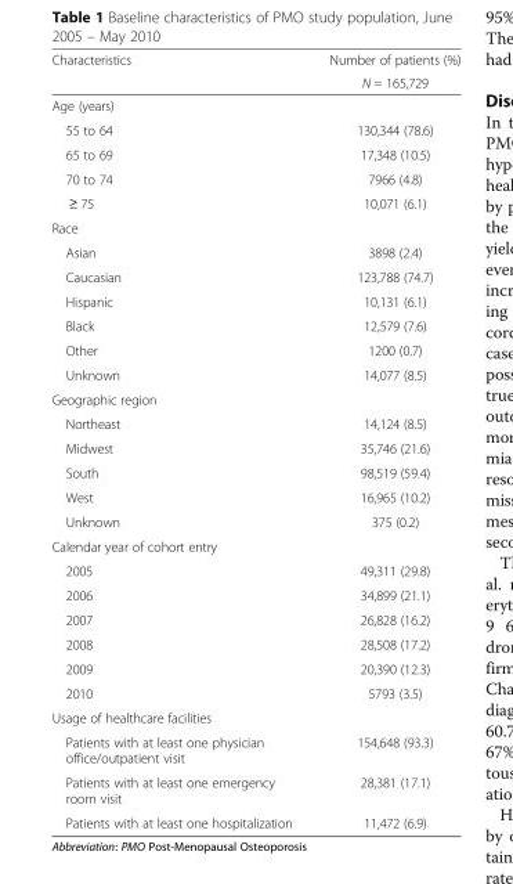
<table><thead><tr><td rowspan="2">Characteristics</td><td rowspan="2">Number of patients (%) N = 165,729</td></tr><tr></tr></thead><tbody><tr><td colspan="2">Age (years)</td></tr><tr><td>55 to 64</td><td>130,344 (78.6)</td></tr><tr><td>65 to 69</td><td>17,348 (10.5)</td></tr><tr><td>70 to 74</td><td>7966 (4.8)</td></tr><tr><td>≥ 75</td><td>10,071 (6.1)</td></tr><tr><td colspan="2">Race</td></tr><tr><td>Asian</td><td>3898 (2.4)</td></tr><tr><td>Caucasian</td><td>123,788 (74.7)</td></tr><tr><td>Hispanic</td><td>10,131 (6.1)</td></tr><tr><td>Black</td><td>12,579 (7.6)</td></tr><tr><td>Other</td><td>1200 (0.7)</td></tr><tr><td>Unknown</td><td>14,077 (8.5)</td></tr><tr><td colspan="2">Geographic region</td></tr><tr><td>Northeast</td><td>14,124 (8.5)</td></tr><tr><td>Midwest</td><td>35,746 (21.6)</td></tr><tr><td>South</td><td>98,519 (59.4)</td></tr><tr><td>West</td><td>16,965 (10.2)</td></tr><tr><td>Unknown</td><td>375 (0.2)</td></tr><tr><td colspan="2">Calendar year of cohort entry</td></tr><tr><td>2005</td><td>49,311 (29.8)</td></tr><tr><td>2006</td><td>34,899 (21.1)</td></tr><tr><td>2007</td><td>26,828 (16.2)</td></tr><tr><td>2008</td><td>28,508 (17.2)</td></tr><tr><td>2009</td><td>20,390 (12.3)</td></tr><tr><td>2010</td><td>5793 (3.5)</td></tr><tr><td colspan="2">Usage of healthcare facilities</td></tr><tr><td>Patients with at least one physician office/outpatient visit</td><td>154,648 (93.3)</td></tr><tr><td>Patients with at least one emergency room visit</td><td>28,381 (17.1)</td></tr><tr><td>Patients with at least one hospitalization</td><td>11,472 (6.9)</td></tr></tbody></table>